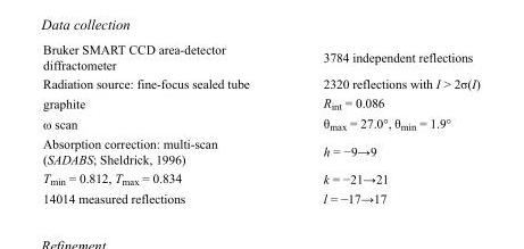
<table><tbody><tr><td>Bruker SMART CCD area-detector diffractometer</td><td>3784 independent reflections</td></tr><tr><td>Radiation source: fine-focus sealed tube</td><td>2320 reflections with I &gt; 2σ(I)</td></tr><tr><td>graphite</td><td>R<sub>int</sub> = 0.086</td></tr><tr><td>ω scan</td><td>θ<sub>max</sub> = 27.0°, θ<sub>min</sub> = 1.9°</td></tr><tr><td>Absorption correction: multi-scan (SADABS; Sheldrick, 1996)</td><td>h = −9→9</td></tr><tr><td>T<sub>min</sub> = 0.812, T<sub>max</sub> = 0.834</td><td>k = −21→21</td></tr><tr><td>14014 measured reflections</td><td>l = −17→17</td></tr></tbody></table>